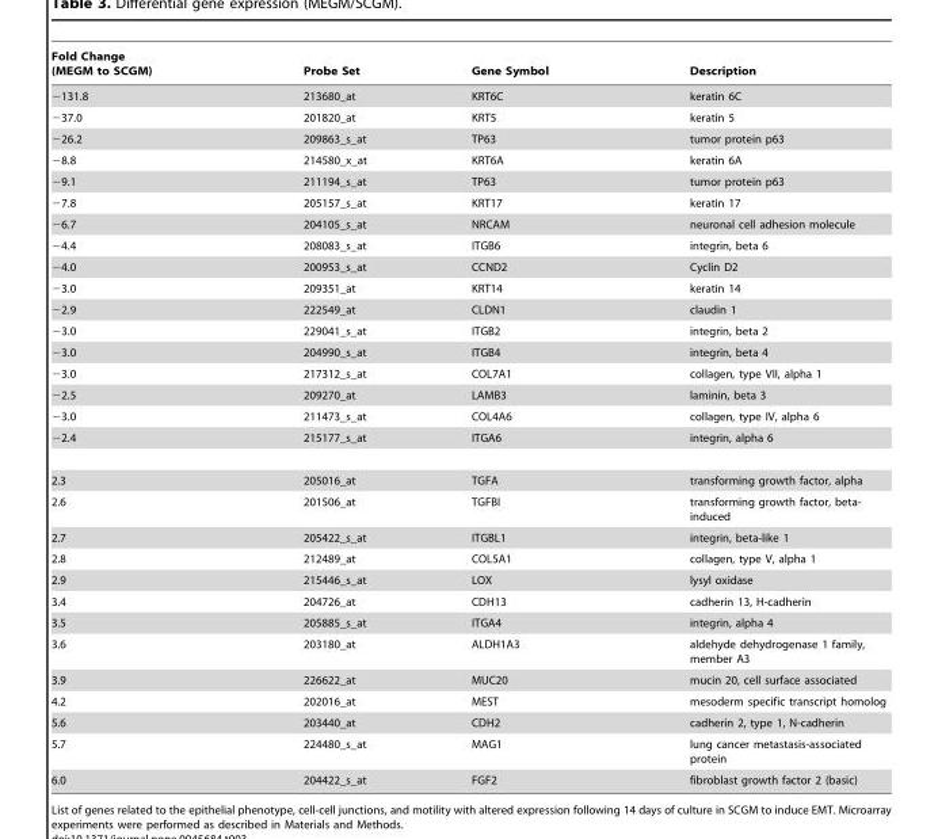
<table><thead><tr><td>Fold Change (MEGM to SCGM)</td><td>Probe Set</td><td>Gene Symbol</td><td>Description</td></tr></thead><tbody><tr><td>−131.8</td><td>213680_at</td><td>KRT6C</td><td>keratin 6C</td></tr><tr><td>−37.0</td><td>201820_at</td><td>KRT5</td><td>keratin 5</td></tr><tr><td>−26.2</td><td>209863_s_at</td><td>TP63</td><td>tumor protein p63</td></tr><tr><td>−8.8</td><td>214580_x_at</td><td>KRT6A</td><td>keratin 6A</td></tr><tr><td>−9.1</td><td>211194_s_at</td><td>TP63</td><td>tumor protein p63</td></tr><tr><td>−7.8</td><td>205157_s_at</td><td>KRT17</td><td>keratin 17</td></tr><tr><td>−6.7</td><td>204105_s_at</td><td>NRCAM</td><td>neuronal cell adhesion molecule</td></tr><tr><td>−4.4</td><td>208083_s_at</td><td>ITGB6</td><td>integrin, beta 6</td></tr><tr><td>−4.0</td><td>200953_s_at</td><td>CCND2</td><td>Cyclin D2</td></tr><tr><td>−3.0</td><td>209351_at</td><td>KRT14</td><td>keratin 14</td></tr><tr><td>−2.9</td><td>222549_at</td><td>CLDN1</td><td>claudin 1</td></tr><tr><td>−3.0</td><td>229041_s_at</td><td>ITGB2</td><td>integrin, beta 2</td></tr><tr><td>−3.0</td><td>204990_s_at</td><td>ITGB4</td><td>integrin, beta 4</td></tr><tr><td>−3.0</td><td>217312_s_at</td><td>COL7A1</td><td>collagen, type VII, alpha 1</td></tr><tr><td>−2.5</td><td>209270_at</td><td>LAMB3</td><td>laminin, beta 3</td></tr><tr><td>−3.0</td><td>211473_s_at</td><td>COL4A6</td><td>collagen, type IV, alpha 6</td></tr><tr><td>−2.4</td><td>215177_s_at</td><td>ITGA6</td><td>integrin, alpha 6</td></tr><tr><td>2.3</td><td>205016_at</td><td>TGFA</td><td>transforming growth factor, alpha</td></tr><tr><td>2.6</td><td>201506_at</td><td>TGFBI</td><td>transforming growth factor, beta- induced</td></tr><tr><td>2.7</td><td>205422_s_at</td><td>ITGBL1</td><td>integrin, beta-like 1</td></tr><tr><td>2.8</td><td>212489_at</td><td>COL5A1</td><td>collagen, type V, alpha 1</td></tr><tr><td>2.9</td><td>215446_s_at</td><td>LOX</td><td>lysyl oxidase</td></tr><tr><td>3.4</td><td>204726_at</td><td>CDH13</td><td>cadherin 13, H-cadherin</td></tr><tr><td>3.5</td><td>205885_s_at</td><td>ITGA4</td><td>integrin, alpha 4</td></tr><tr><td>3.6</td><td>203180_at</td><td>ALDH1A3</td><td>aldehyde dehydrogenase 1 family, member A3</td></tr><tr><td>3.9</td><td>226622_at</td><td>MUC20</td><td>mucin 20, cell surface associated</td></tr><tr><td>4.2</td><td>202016_at</td><td>MEST</td><td>mesoderm specific transcript homolog</td></tr><tr><td>5.6</td><td>203440_at</td><td>CDH2</td><td>cadherin 2, type 1, N-cadherin</td></tr><tr><td>5.7</td><td>224480_s_at</td><td>MAG1</td><td>lung cancer metastasis-associated protein</td></tr><tr><td>6.0</td><td>204422_s_at</td><td>FGF2</td><td>fibroblast growth factor 2 (basic)</td></tr></tbody></table>